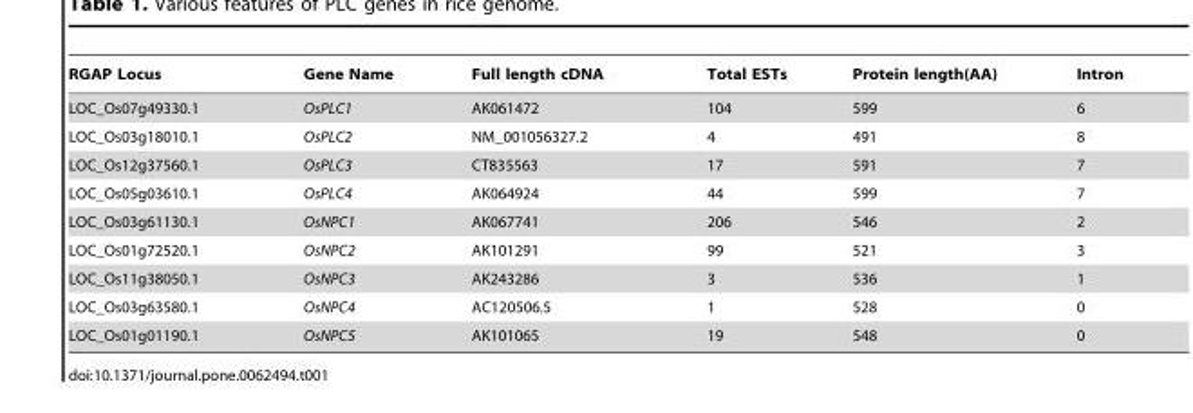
<table><thead><tr><td>RGAP Locus</td><td>Gene Name</td><td>Full length cDNA</td><td>Total ESTs</td><td>Protein length(AA)</td><td>Intron</td></tr></thead><tbody><tr><td>LOC_Os07g49330.1</td><td>OsPLC1</td><td>AK061472</td><td>104</td><td>599</td><td>6</td></tr><tr><td>LOC_Os03g18010.1</td><td>OsPLC2</td><td>NM_001056327.2</td><td>4</td><td>491</td><td>8</td></tr><tr><td>LOC_Os12g37560.1</td><td>OsPLC3</td><td>CT835563</td><td>17</td><td>591</td><td>7</td></tr><tr><td>LOC_Os05g03610.1</td><td>OsPLC4</td><td>AK064924</td><td>44</td><td>599</td><td>7</td></tr><tr><td>LOC_Os03g61130.1</td><td>OsNPC1</td><td>AK067741</td><td>206</td><td>546</td><td>2</td></tr><tr><td>LOC_Os01g72520.1</td><td>OsNPC2</td><td>AK101291</td><td>99</td><td>521</td><td>3</td></tr><tr><td>LOC_Os11g38050.1</td><td>OsNPC3</td><td>AK243286</td><td>3</td><td>536</td><td>1</td></tr><tr><td>LOC_Os03g63580.1</td><td>OsNPC4</td><td>AC120506.5</td><td>1</td><td>528</td><td>0</td></tr><tr><td>LOC_Os01g01190.1</td><td>OsNPC5</td><td>AK101065</td><td>19</td><td>548</td><td>0</td></tr></tbody></table>